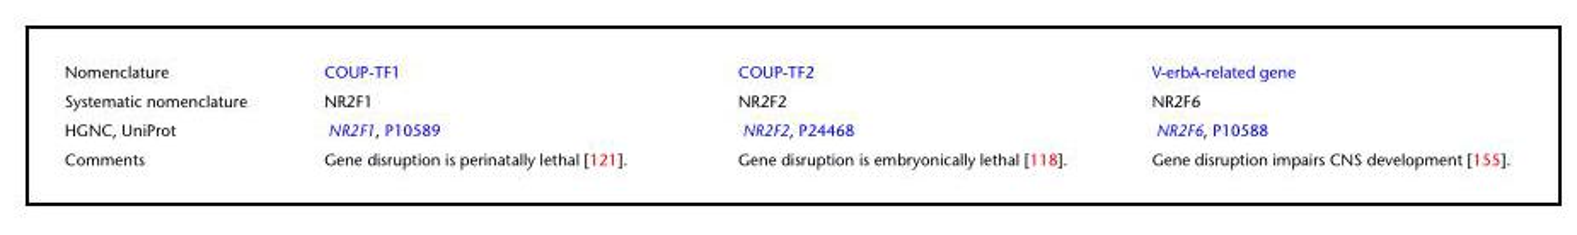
<table><tbody><tr><td>Nomenclature</td><td>COUP-TF1</td><td>COUP-TF2</td><td>V-erbA-related gene</td></tr><tr><td>Systematic nomenclature</td><td>NR2F1</td><td>NR2F2</td><td>NR2F6</td></tr><tr><td>HGNC, UniProt</td><td>NR2F1, P10589</td><td>NR2F2, P24468</td><td>NR2F6, P10588</td></tr><tr><td>Comments</td><td>Gene disruption is perinatally lethal [121].</td><td>Gene disruption is embryonically lethal [118].</td><td>Gene disruption impairs CNS development [155].</td></tr></tbody></table>